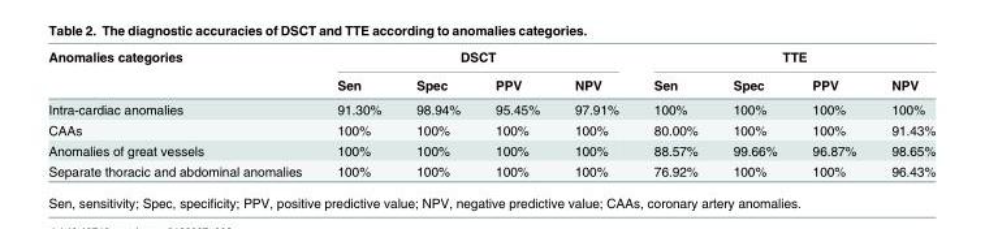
<table><thead><tr><td rowspan="2">Anomalies categories</td><td colspan="4">DSCT</td><td colspan="4">TTE</td></tr><tr><td>Sen</td><td>Spec</td><td>PPV</td><td>NPV</td><td>Sen</td><td>Spec</td><td>PPV</td><td>NPV</td></tr></thead><tbody><tr><td>Intra-cardiac anomalies</td><td>91.30%</td><td>98.94%</td><td>95.45%</td><td>97.91%</td><td>100%</td><td>100%</td><td>100%</td><td>100%</td></tr><tr><td>CAAs</td><td>100%</td><td>100%</td><td>100%</td><td>100%</td><td>80.00%</td><td>100%</td><td>100%</td><td>91.43%</td></tr><tr><td>Anomalies of great vessels</td><td>100%</td><td>100%</td><td>100%</td><td>100%</td><td>88.57%</td><td>99.66%</td><td>96.87%</td><td>98.65%</td></tr><tr><td>Separate thoracic and abdominal anomalies</td><td>100%</td><td>100%</td><td>100%</td><td>100%</td><td>76.92%</td><td>100%</td><td>100%</td><td>96.43%</td></tr></tbody></table>